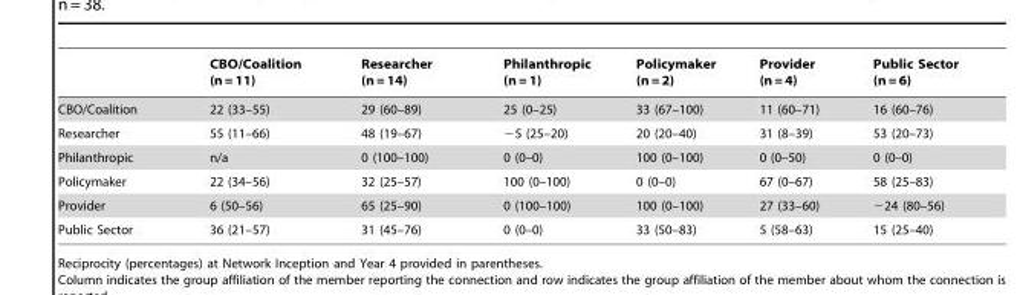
<table><thead><tr><td></td><td>CBO/Coalition (n = 11)</td><td>Researcher (n = 14)</td><td>Philanthropic (n = 1)</td><td>Policymaker (n = 2)</td><td>Provider (n = 4)</td><td>Public Sector (n = 6)</td></tr></thead><tbody><tr><td>CBO/Coalition</td><td>22 (33–55)</td><td>29 (60–89)</td><td>25 (0–25)</td><td>33 (67–100)</td><td>11 (60–71)</td><td>16 (60–76)</td></tr><tr><td>Researcher</td><td>55 (11–66)</td><td>48 (19–67)</td><td>−5 (25–20)</td><td>20 (20–40)</td><td>31 (8–39)</td><td>53 (20–73)</td></tr><tr><td>Philanthropic</td><td>n/a</td><td>0 (100–100)</td><td>0 (0–0)</td><td>100 (0–100)</td><td>0 (0–50)</td><td>0 (0–0)</td></tr><tr><td>Policymaker</td><td>22 (34–56)</td><td>32 (25–57)</td><td>100 (0–100)</td><td>0 (0–0)</td><td>67 (0–67)</td><td>58 (25–83)</td></tr><tr><td>Provider</td><td>6 (50–56)</td><td>65 (25–90)</td><td>0 (100–100)</td><td>100 (0–100)</td><td>27 (33–60)</td><td>−24 (80–56)</td></tr><tr><td>Public Sector</td><td>36 (21–57)</td><td>31 (45–76)</td><td>0 (0–0)</td><td>33 (50–83)</td><td>5 (58–63)</td><td>15 (25–40)</td></tr></tbody></table>